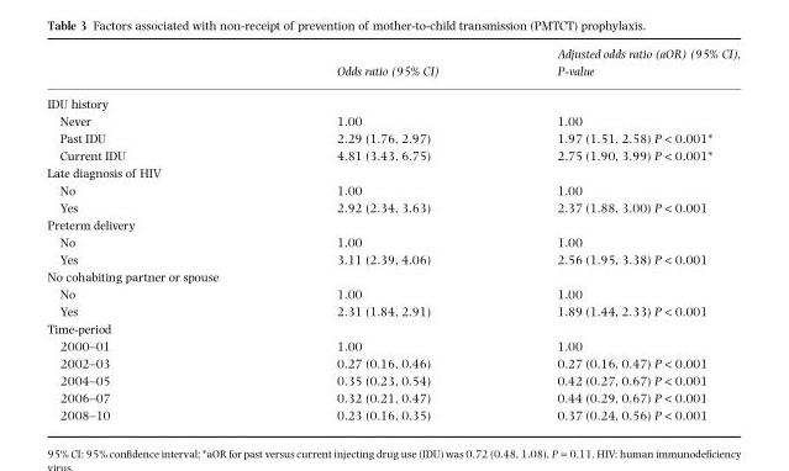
<table><thead><tr><td></td><td>Odds ratio (95% CI)</td><td>Adjusted odds ratio (aOR) (95% CI), P-value</td></tr></thead><tbody><tr><td colspan="3">IDU history</td></tr><tr><td>Never</td><td>1.00</td><td>1.00</td></tr><tr><td>Past IDU</td><td>2.29 (1.76, 2.97)</td><td>1.97 (1.51, 2.58) P &lt; 0.001*</td></tr><tr><td>Current IDU</td><td>4.81 (3.43, 6.75)</td><td>2.75 (1.90, 3.99) P &lt; 0.001*</td></tr><tr><td colspan="3">Late diagnosis of HIV</td></tr><tr><td>No</td><td>1.00</td><td>1.00</td></tr><tr><td>Yes</td><td>2.92 (2.34, 3.63)</td><td>2.37 (1.88, 3.00) P &lt; 0.001</td></tr><tr><td colspan="3">Preterm delivery</td></tr><tr><td>No</td><td>1.00</td><td>1.00</td></tr><tr><td>Yes</td><td>3.11 (2.39, 4.06)</td><td>2.56 (1.95, 3.38) P &lt; 0.001</td></tr><tr><td colspan="3">No cohabiting partner or spouse</td></tr><tr><td>No</td><td>1.00</td><td>1.00</td></tr><tr><td>Yes</td><td>2.31 (1.84, 2.91)</td><td>1.89 (1.44, 2.33) P &lt; 0.001</td></tr><tr><td colspan="3">Time-period</td></tr><tr><td>2000–01</td><td>1.00</td><td>1.00</td></tr><tr><td>2002–03</td><td>0.27 (0.16, 0.46)</td><td>0.27 (0.16, 0.47) P &lt; 0.001</td></tr><tr><td>2004–05</td><td>0.35 (0.23, 0.54)</td><td>0.42 (0.27, 0.67) P &lt; 0.001</td></tr><tr><td>2006–07</td><td>0.32 (0.21, 0.47)</td><td>0.44 (0.29, 0.67) P &lt; 0.001</td></tr><tr><td>2008–10</td><td>0.23 (0.16, 0.35)</td><td>0.37 (0.24, 0.56) P &lt; 0.001</td></tr></tbody></table>